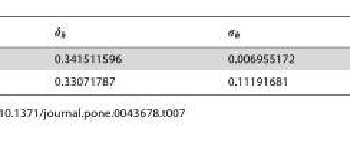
<table><tbody><tr><td>0.341511596</td><td>0.006955172</td></tr><tr><td>0.33071787</td><td>0.11191681</td></tr></tbody></table>